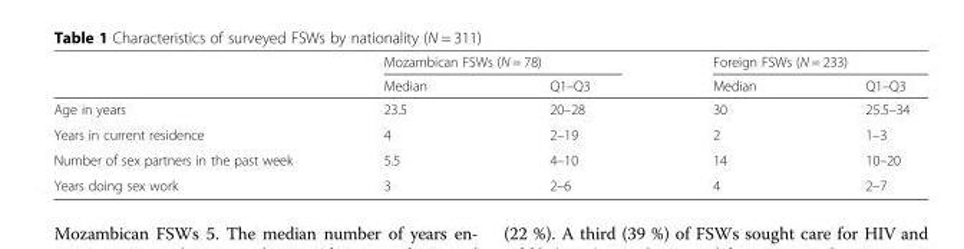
<table><thead><tr><td rowspan="2"></td><td colspan="2">Mozambican FSWs (N = 78)</td><td colspan="2">Foreign FSWs (N = 233)</td></tr><tr><td>Median</td><td>Q1–Q3</td><td>Median</td><td>Q1–Q3</td></tr></thead><tbody><tr><td>Age in years</td><td>23.5</td><td>20–28</td><td>30</td><td>25.5–34</td></tr><tr><td>Years in current residence</td><td>4</td><td>2–19</td><td>2</td><td>1–3</td></tr><tr><td>Number of sex partners in the past week</td><td>5.5</td><td>4–10</td><td>14</td><td>10–20</td></tr><tr><td>Years doing sex work</td><td>3</td><td>2–6</td><td>4</td><td>2–7</td></tr></tbody></table>